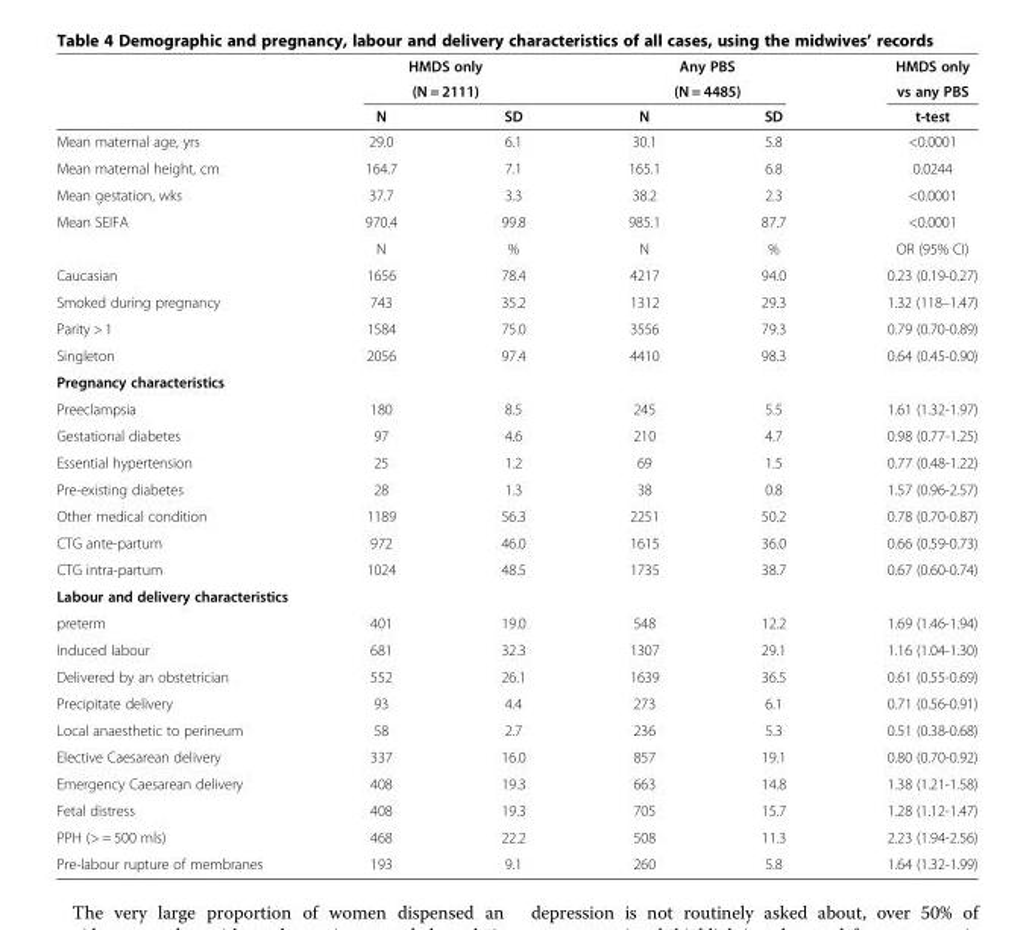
<table><thead><tr><td rowspan="3"></td><td rowspan="2" colspan="2">HMDS only (N = 2111)</td><td rowspan="2" colspan="2">Any PBS (N = 4485)</td><td rowspan="3">HMDS only vs any PBS t-test</td></tr><tr></tr><tr><td>N</td><td>SD</td><td>N</td><td>SD</td></tr></thead><tbody><tr><td>Mean maternal age, yrs</td><td>29.0</td><td>6.1</td><td>30.1</td><td>5.8</td><td>&lt;0.0001</td></tr><tr><td>Mean maternal height, cm</td><td>164.7</td><td>7.1</td><td>165.1</td><td>6.8</td><td>0.0244</td></tr><tr><td>Mean gestation, wks</td><td>37.7</td><td>3.3</td><td>38.2</td><td>2.3</td><td>&lt;0.0001</td></tr><tr><td rowspan="2">Mean SEIFA</td><td>970.4</td><td>99.8</td><td>985.1</td><td>87.7</td><td>&lt;0.0001</td></tr><tr><td>N</td><td>%</td><td>N</td><td>%</td><td>OR (95% CI)</td></tr><tr><td>Caucasian</td><td>1656</td><td>78.4</td><td>4217</td><td>94.0</td><td>0.23 (0.19-0.27)</td></tr><tr><td>Smoked during pregnancy</td><td>743</td><td>35.2</td><td>1312</td><td>29.3</td><td>1.32 (118–1.47)</td></tr><tr><td>Parity &gt; 1</td><td>1584</td><td>75.0</td><td>3556</td><td>79.3</td><td>0.79 (0.70-0.89)</td></tr><tr><td>Singleton</td><td>2056</td><td>97.4</td><td>4410</td><td>98.3</td><td>0.64 (0.45-0.90)</td></tr><tr><td colspan="6">Pregnancy characteristics</td></tr><tr><td>Preeclampsia</td><td>180</td><td>8.5</td><td>245</td><td>5.5</td><td>1.61 (1.32-1.97)</td></tr><tr><td>Gestational diabetes</td><td>97</td><td>4.6</td><td>210</td><td>4.7</td><td>0.98 (0.77-1.25)</td></tr><tr><td>Essential hypertension</td><td>25</td><td>1.2</td><td>69</td><td>1.5</td><td>0.77 (0.48-1.22)</td></tr><tr><td>Pre-existing diabetes</td><td>28</td><td>1.3</td><td>38</td><td>0.8</td><td>1.57 (0.96-2.57)</td></tr><tr><td>Other medical condition</td><td>1189</td><td>56.3</td><td>2251</td><td>50.2</td><td>0.78 (0.70-0.87)</td></tr><tr><td>CTG ante-partum</td><td>972</td><td>46.0</td><td>1615</td><td>36.0</td><td>0.66 (0.59-0.73)</td></tr><tr><td>CTG intra-partum</td><td>1024</td><td>48.5</td><td>1735</td><td>38.7</td><td>0.67 (0.60-0.74)</td></tr><tr><td colspan="6">Labour and delivery characteristics</td></tr><tr><td>preterm</td><td>401</td><td>19.0</td><td>548</td><td>12.2</td><td>1.69 (1.46-1.94)</td></tr><tr><td>Induced labour</td><td>681</td><td>32.3</td><td>1307</td><td>29.1</td><td>1.16 (1.04-1.30)</td></tr><tr><td>Delivered by an obstetrician</td><td>552</td><td>26.1</td><td>1639</td><td>36.5</td><td>0.61 (0.55-0.69)</td></tr><tr><td>Precipitate delivery</td><td>93</td><td>4.4</td><td>273</td><td>6.1</td><td>0.71 (0.56-0.91)</td></tr><tr><td>Local anaesthetic to perineum</td><td>58</td><td>2.7</td><td>236</td><td>5.3</td><td>0.51 (0.38-0.68)</td></tr><tr><td>Elective Caesarean delivery</td><td>337</td><td>16.0</td><td>857</td><td>19.1</td><td>0.80 (0.70-0.92)</td></tr><tr><td>Emergency Caesarean delivery</td><td>408</td><td>19.3</td><td>663</td><td>14.8</td><td>1.38 (1.21-1.58)</td></tr><tr><td>Fetal distress</td><td>408</td><td>19.3</td><td>705</td><td>15.7</td><td>1.28 (1.12-1.47)</td></tr><tr><td>PPH (&gt; = 500 mls)</td><td>468</td><td>22.2</td><td>508</td><td>11.3</td><td>2.23 (1.94-2.56)</td></tr><tr><td>Pre-labour rupture of membranes</td><td>193</td><td>9.1</td><td>260</td><td>5.8</td><td>1.64 (1.32-1.99)</td></tr></tbody></table>